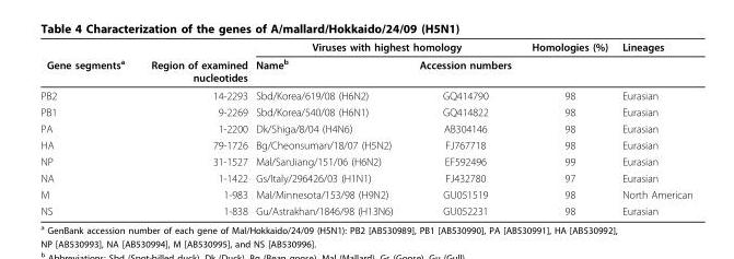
<table><thead><tr><td rowspan="2">Gene segments<sup>a</sup></td><td rowspan="2">Region of examined nucleotides</td><td colspan="2">Viruses with highest homology</td><td rowspan="2">Homologies (%)</td><td rowspan="2">Lineages</td></tr><tr><td>Name<sup>b</sup></td><td>Accession numbers</td></tr></thead><tbody><tr><td>PB2</td><td>14-2293</td><td>Sbd/Korea/619/08 (H6N2)</td><td>GQ414790</td><td>98</td><td>Eurasian</td></tr><tr><td>PB1</td><td>9-2269</td><td>Sbd/Korea/540/08 (H6N1)</td><td>GQ414822</td><td>98</td><td>Eurasian</td></tr><tr><td>PA</td><td>1-2200</td><td>Dk/Shiga/8/04 (H4N6)</td><td>AB304146</td><td>98</td><td>Eurasian</td></tr><tr><td>HA</td><td>79-1726</td><td>Bg/Cheonsuman/18/07 (H5N2)</td><td>FJ767718</td><td>98</td><td>Eurasian</td></tr><tr><td>NP</td><td>31-1527</td><td>Mal/SanJiang/151/06 (H6N2)</td><td>EF592496</td><td>99</td><td>Eurasian</td></tr><tr><td>NA</td><td>1-1422</td><td>Gs/Italy/296426/03 (H1N1)</td><td>FJ432780</td><td>97</td><td>Eurasian</td></tr><tr><td>M</td><td>1-983</td><td>Mal/Minnesota/153/98 (H9N2)</td><td>GU051519</td><td>98</td><td>North American</td></tr><tr><td>NS</td><td>1-838</td><td>Gu/Astrakhan/1846/98 (H13N6)</td><td>GU052231</td><td>98</td><td>Eurasian</td></tr></tbody></table>